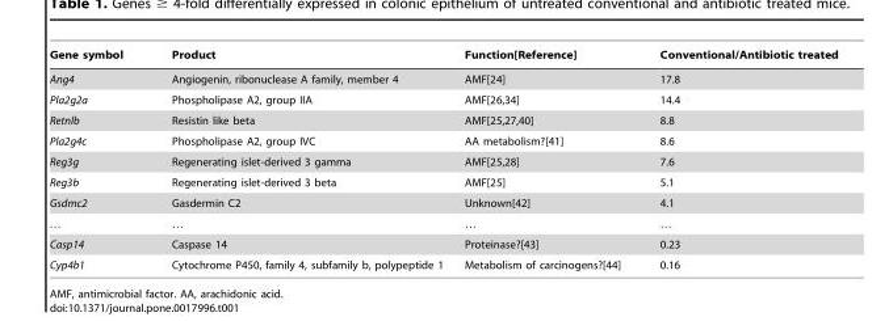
<table><thead><tr><td>Gene symbol</td><td>Product</td><td>Function[Reference]</td><td>Conventional/Antibiotic treated</td></tr></thead><tbody><tr><td>Ang4</td><td>Angiogenin, ribonuclease A family, member 4</td><td>AMF[24]</td><td>17.8</td></tr><tr><td>Pla2g2a</td><td>Phospholipase A2, group IIA</td><td>AMF[26,34]</td><td>14.4</td></tr><tr><td>Retnlb</td><td>Resistin like beta</td><td>AMF[25,27,40]</td><td>8.8</td></tr><tr><td>Pla2g4c</td><td>Phospholipase A2, group IVC</td><td>AA metabolism?[41]</td><td>8.6</td></tr><tr><td>Reg3g</td><td>Regenerating islet-derived 3 gamma</td><td>AMF[25,28]</td><td>7.6</td></tr><tr><td>Reg3b</td><td>Regenerating islet-derived 3 beta</td><td>AMF[25]</td><td>5.1</td></tr><tr><td>Gsdmc2</td><td>Gasdermin C2</td><td>Unknown[42]</td><td>4.1</td></tr><tr><td>…</td><td>…</td><td>…</td><td>…</td></tr><tr><td>Casp14</td><td>Caspase 14</td><td>Proteinase?[43]</td><td>0.23</td></tr><tr><td>Cyp4b1</td><td>Cytochrome P450, family 4, subfamily b, polypeptide 1</td><td>Metabolism of carcinogens?[44]</td><td>0.16</td></tr></tbody></table>